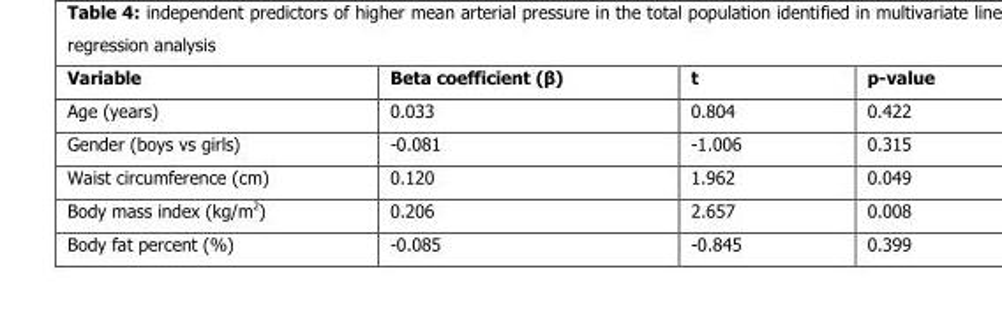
<table><thead><tr><td>Variable</td><td>Beta coefficient (β)</td><td>t</td><td>p-value</td></tr></thead><tbody><tr><td>Age (years)</td><td>0.033</td><td>0.804</td><td>0.422</td></tr><tr><td>Gender (boys vs girls)</td><td>-0.081</td><td>-1.006</td><td>0.315</td></tr><tr><td>Waist circumference (cm)</td><td>0.120</td><td>1.962</td><td>0.049</td></tr><tr><td>Body mass index (kg/m<sup>2</sup>)</td><td>0.206</td><td>2.657</td><td>0.008</td></tr><tr><td>Body fat percent (%)</td><td>-0.085</td><td>-0.845</td><td>0.399</td></tr></tbody></table>